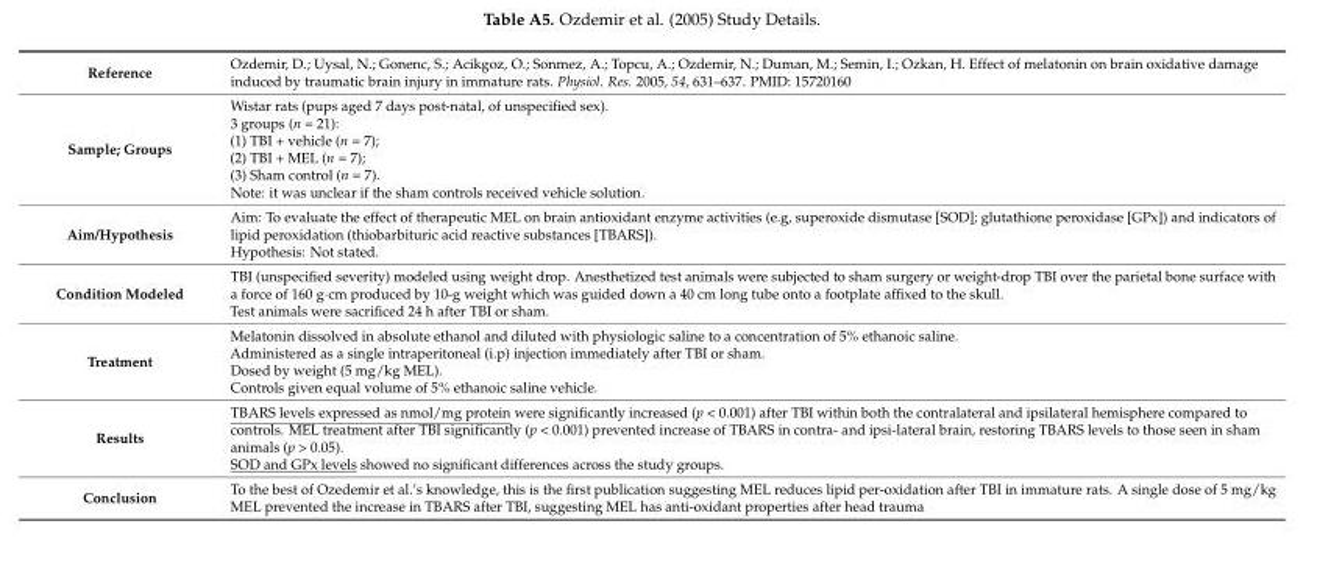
<table><tbody><tr><td>Reference</td><td>Ozdemir, D.; Uysal, N.; Gonenc, S.; Acikgoz, O.; Sonmez, A.; Topcu, A.; Ozdemir, N.; Duman, M.; Semin, I.; Ozkan, H. Effect of melatonin on brain oxidative damage induced by traumatic brain injury in immature rats. Physiol. Res. 2005, 54, 631–637. PMID: 15720160</td></tr><tr><td>Sample; Groups</td><td>Wistar rats (pups aged 7 days post-natal, of unspecified sex). 3 groups (n = 21): (1) TBI + vehicle (n = 7); (2) TBI + MEL (n = 7); (3) Sham control (n = 7). Note: it was unclear if the sham controls received vehicle solution.</td></tr><tr><td>Aim/Hypothesis</td><td>Aim: To evaluate the effect of therapeutic MEL on brain antioxidant enzyme activities (e.g, superoxide dismutase [SOD]; glutathione peroxidase [GPx]) and indicators of lipid peroxidation (thiobarbituric acid reactive substances [TBARS]). Hypothesis: Not stated.</td></tr><tr><td>Condition Modeled</td><td>TBI (unspecified severity) modeled using weight drop. Anesthetized test animals were subjected to sham surgery or weight-drop TBI over the parietal bone surface with a force of 160 g·cm produced by 10-g weight which was guided down a 40 cm long tube onto a footplate affixed to the skull. Test animals were sacrificed 24 h after TBI or sham.</td></tr><tr><td>Treatment</td><td>Melatonin dissolved in absolute ethanol and diluted with physiologic saline to a concentration of 5% ethanoic saline. Administered as a single intraperitoneal (i.p) injection immediately after TBI or sham. Dosed by weight (5 mg/kg MEL). Controls given equal volume of 5% ethanoic saline vehicle.</td></tr><tr><td>Results</td><td>TBARS levels expressed as nmol/mg protein were significantly increased (p &lt; 0.001) after TBI within both the contralateral and ipsilateral hemisphere compared to controls. MEL treatment after TBI significantly (p &lt; 0.001) prevented increase of TBARS in contra- and ipsi-lateral brain, restoring TBARS levels to those seen in sham animals (p &gt; 0.05). SOD and GPx levels showed no significant differences across the study groups.</td></tr><tr><td>Conclusion</td><td>To the best of Ozedemir et al.’s knowledge, this is the first publication suggesting MEL reduces lipid per-oxidation after TBI in immature rats. A single dose of 5 mg/kg MEL prevented the increase in TBARS after TBI, suggesting MEL has anti-oxidant properties after head trauma</td></tr></tbody></table>